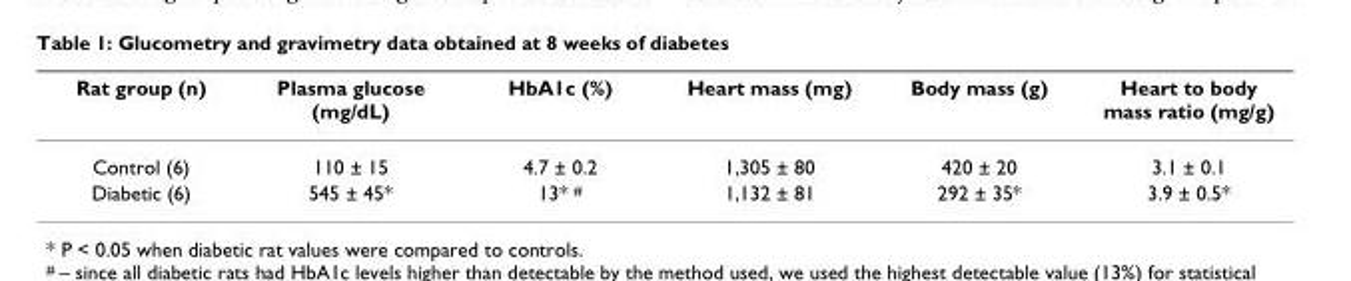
<table><thead><tr><td>Rat group (n)</td><td>Plasma glucose (mg/dL)</td><td>HbA1c (%)</td><td>Heart mass (mg)</td><td>Body mass (g)</td><td>Heart to body mass ratio (mg/g)</td></tr></thead><tbody><tr><td>Control (6)</td><td>110 ± 15</td><td>4.7 ± 0.2</td><td>1,305 ± 80</td><td>420 ± 20</td><td>3.1 ± 0.1</td></tr><tr><td>Diabetic (6)</td><td>545 ± 45*</td><td>13* <sup>#</sup></td><td>1,132 ± 81</td><td>292 ± 35*</td><td>3.9 ± 0.5*</td></tr></tbody></table>